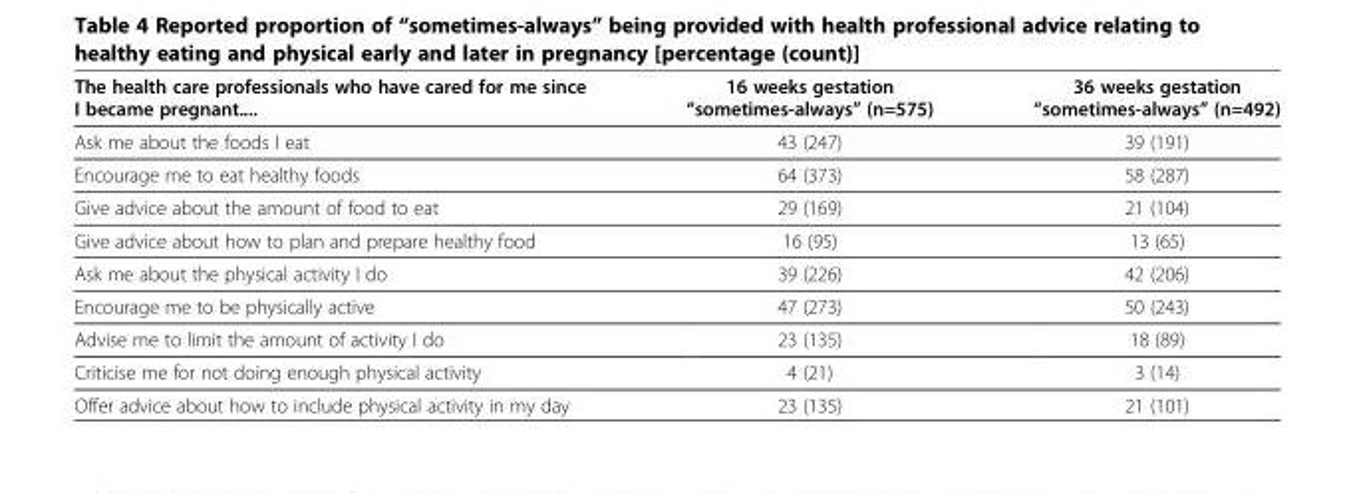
<table><thead><tr><td>The health care professionals who have cared for me since I became pregnant....</td><td>16 weeks gestation “sometimes-always” (n=575)</td><td>36 weeks gestation “sometimes-always” (n=492)</td></tr></thead><tbody><tr><td>Ask me about the foods I eat</td><td>43 (247)</td><td>39 (191)</td></tr><tr><td>Encourage me to eat healthy foods</td><td>64 (373)</td><td>58 (287)</td></tr><tr><td>Give advice about the amount of food to eat</td><td>29 (169)</td><td>21 (104)</td></tr><tr><td>Give advice about how to plan and prepare healthy food</td><td>16 (95)</td><td>13 (65)</td></tr><tr><td>Ask me about the physical activity I do</td><td>39 (226)</td><td>42 (206)</td></tr><tr><td>Encourage me to be physically active</td><td>47 (273)</td><td>50 (243)</td></tr><tr><td>Advise me to limit the amount of activity I do</td><td>23 (135)</td><td>18 (89)</td></tr><tr><td>Criticise me for not doing enough physical activity</td><td>4 (21)</td><td>3 (14)</td></tr><tr><td>Offer advice about how to include physical activity in my day</td><td>23 (135)</td><td>21 (101)</td></tr></tbody></table>